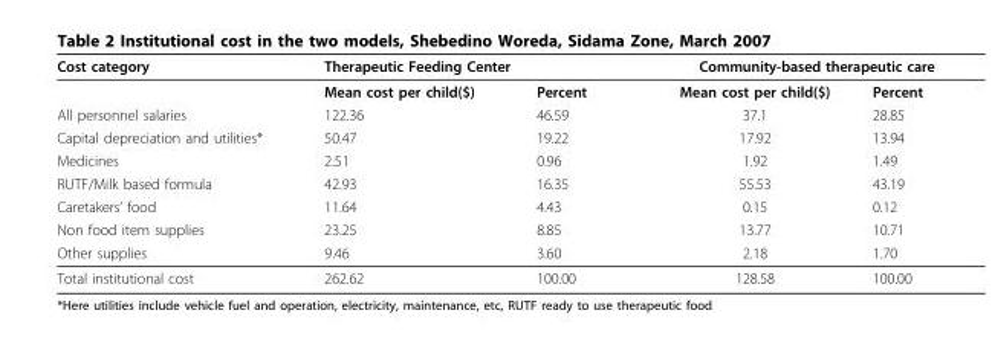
<table><thead><tr><td rowspan="2">Cost category</td><td colspan="2">Therapeutic Feeding Center</td><td colspan="2">Community-based therapeutic care</td></tr><tr><td>Mean cost per child($)</td><td>Percent</td><td>Mean cost per child($)</td><td>Percent</td></tr></thead><tbody><tr><td>All personnel salaries</td><td>122.36</td><td>46.59</td><td>37.1</td><td>28.85</td></tr><tr><td>Capital depreciation and utilities*</td><td>50.47</td><td>19.22</td><td>17.92</td><td>13.94</td></tr><tr><td>Medicines</td><td>2.51</td><td>0.96</td><td>1.92</td><td>1.49</td></tr><tr><td>RUTF/Milk based formula</td><td>42.93</td><td>16.35</td><td>55.53</td><td>43.19</td></tr><tr><td>Caretakers’ food</td><td>11.64</td><td>4.43</td><td>0.15</td><td>0.12</td></tr><tr><td>Non food item supplies</td><td>23.25</td><td>8.85</td><td>13.77</td><td>10.71</td></tr><tr><td>Other supplies</td><td>9.46</td><td>3.60</td><td>2.18</td><td>1.70</td></tr><tr><td>Total institutional cost</td><td>262.62</td><td>100.00</td><td>128.58</td><td>100.00</td></tr></tbody></table>